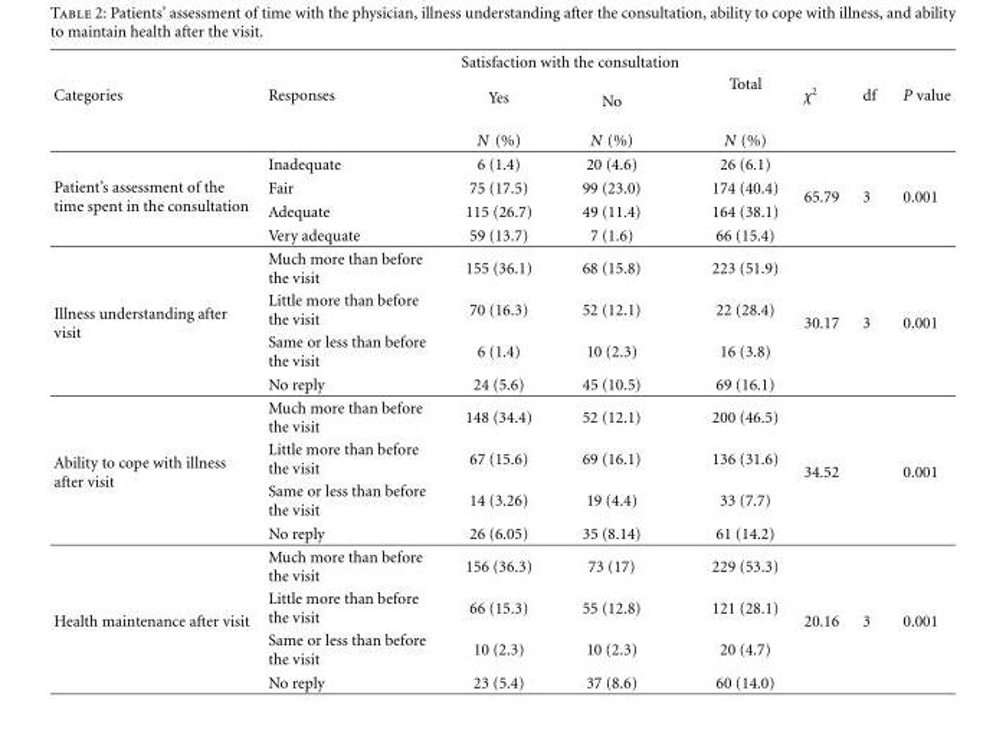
<table><thead><tr><td rowspan="3">Categories</td><td rowspan="3">Responses</td><td colspan="2">Satisfaction with the consultation</td><td rowspan="3">Total N (%)</td><td rowspan="3">χ<sup>2</sup></td><td rowspan="3">df</td><td rowspan="3">P value</td></tr><tr><td rowspan="2">Yes N (%)</td><td rowspan="2">No N (%)</td></tr><tr></tr></thead><tbody><tr><td rowspan="4">Patient’s assessment of the time spent in the consultation</td><td>Inadequate</td><td>6 (1.4)</td><td>20 (4.6)</td><td>26 (6.1)</td><td rowspan="4">65.79</td><td rowspan="4">3</td><td rowspan="4">0.001</td></tr><tr><td>Fair</td><td>75 (17.5)</td><td>99 (23.0)</td><td>174 (40.4)</td></tr><tr><td>Adequate</td><td>115 (26.7)</td><td>49 (11.4)</td><td>164 (38.1)</td></tr><tr><td>Very adequate</td><td>59 (13.7)</td><td>7 (1.6)</td><td>66 (15.4)</td></tr><tr><td rowspan="4">Illness understanding after visit</td><td>Much more than before the visit</td><td>155 (36.1)</td><td>68 (15.8)</td><td>223 (51.9)</td><td rowspan="4">30.17</td><td rowspan="4">3</td><td rowspan="4">0.001</td></tr><tr><td>Little more than before the visit</td><td>70 (16.3)</td><td>52 (12.1)</td><td>22 (28.4)</td></tr><tr><td>Same or less than before the visit</td><td>6 (1.4)</td><td>10 (2.3)</td><td>16 (3.8)</td></tr><tr><td>No reply</td><td>24 (5.6)</td><td>45 (10.5)</td><td>69 (16.1)</td></tr><tr><td rowspan="4">Ability to cope with illness after visit</td><td>Much more than before the visit</td><td>148 (34.4)</td><td>52 (12.1)</td><td>200 (46.5)</td><td rowspan="4">34.52</td><td rowspan="4"></td><td rowspan="4">0.001</td></tr><tr><td>Little more than before the visit</td><td>67 (15.6)</td><td>69 (16.1)</td><td>136 (31.6)</td></tr><tr><td>Same or less than before the visit</td><td>14 (3.26)</td><td>19 (4.4)</td><td>33 (7.7)</td></tr><tr><td>No reply</td><td>26 (6.05)</td><td>35 (8.14)</td><td>61 (14.2)</td></tr><tr><td rowspan="4">Health maintenance after visit</td><td>Much more than before the visit</td><td>156 (36.3)</td><td>73 (17)</td><td>229 (53.3)</td><td rowspan="4">20.16</td><td rowspan="4">3</td><td rowspan="4">0.001</td></tr><tr><td>Little more than before the visit</td><td>66 (15.3)</td><td>55 (12.8)</td><td>121 (28.1)</td></tr><tr><td>Same or less than before the visit</td><td>10 (2.3)</td><td>10 (2.3)</td><td>20 (4.7)</td></tr><tr><td>No reply</td><td>23 (5.4)</td><td>37 (8.6)</td><td>60 (14.0)</td></tr></tbody></table>